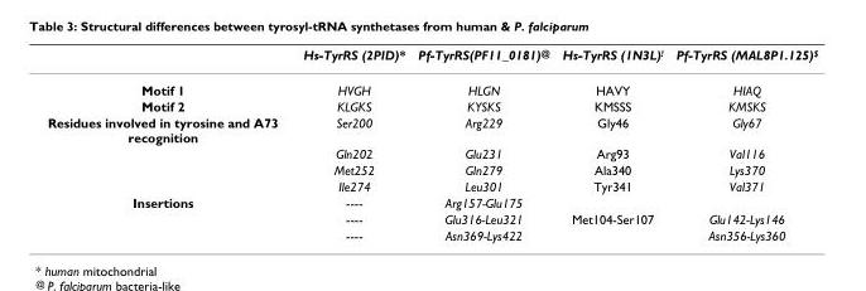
<table><thead><tr><td></td><td>Hs-TyrRS (2PID)*</td><td>Pf-TyrRS(PF11_0181)<sup>@</sup></td><td>Hs-TyrRS (1N3L)<sup>!</sup></td><td>Pf-TyrRS (MAL8P1.125)<sup>$</sup></td></tr></thead><tbody><tr><td>Motif 1</td><td>HVGH</td><td>HLGN</td><td>HAVY</td><td>HIAQ</td></tr><tr><td>Motif 2</td><td>KLGKS</td><td>KYSKS</td><td>KMSSS</td><td>KMSKS</td></tr><tr><td rowspan="4">Residues involved in tyrosine and A73 recognition</td><td>Ser200</td><td>Arg229</td><td>Gly46</td><td>Gly67</td></tr><tr><td>Gln202</td><td>Glu231</td><td>Arg93</td><td>Val116</td></tr><tr><td>Met252</td><td>Gln279</td><td>Ala340</td><td>Lys370</td></tr><tr><td>Ile274</td><td>Leu301</td><td>Tyr341</td><td>Val371</td></tr><tr><td rowspan="3">Insertions</td><td>----</td><td>Arg157-Glu175</td><td></td><td></td></tr><tr><td>----</td><td>Glu316-Leu321</td><td>Met104-Ser107</td><td>Glu142-Lys146</td></tr><tr><td>----</td><td>Asn369-Lys422</td><td></td><td>Asn356-Lys360</td></tr></tbody></table>